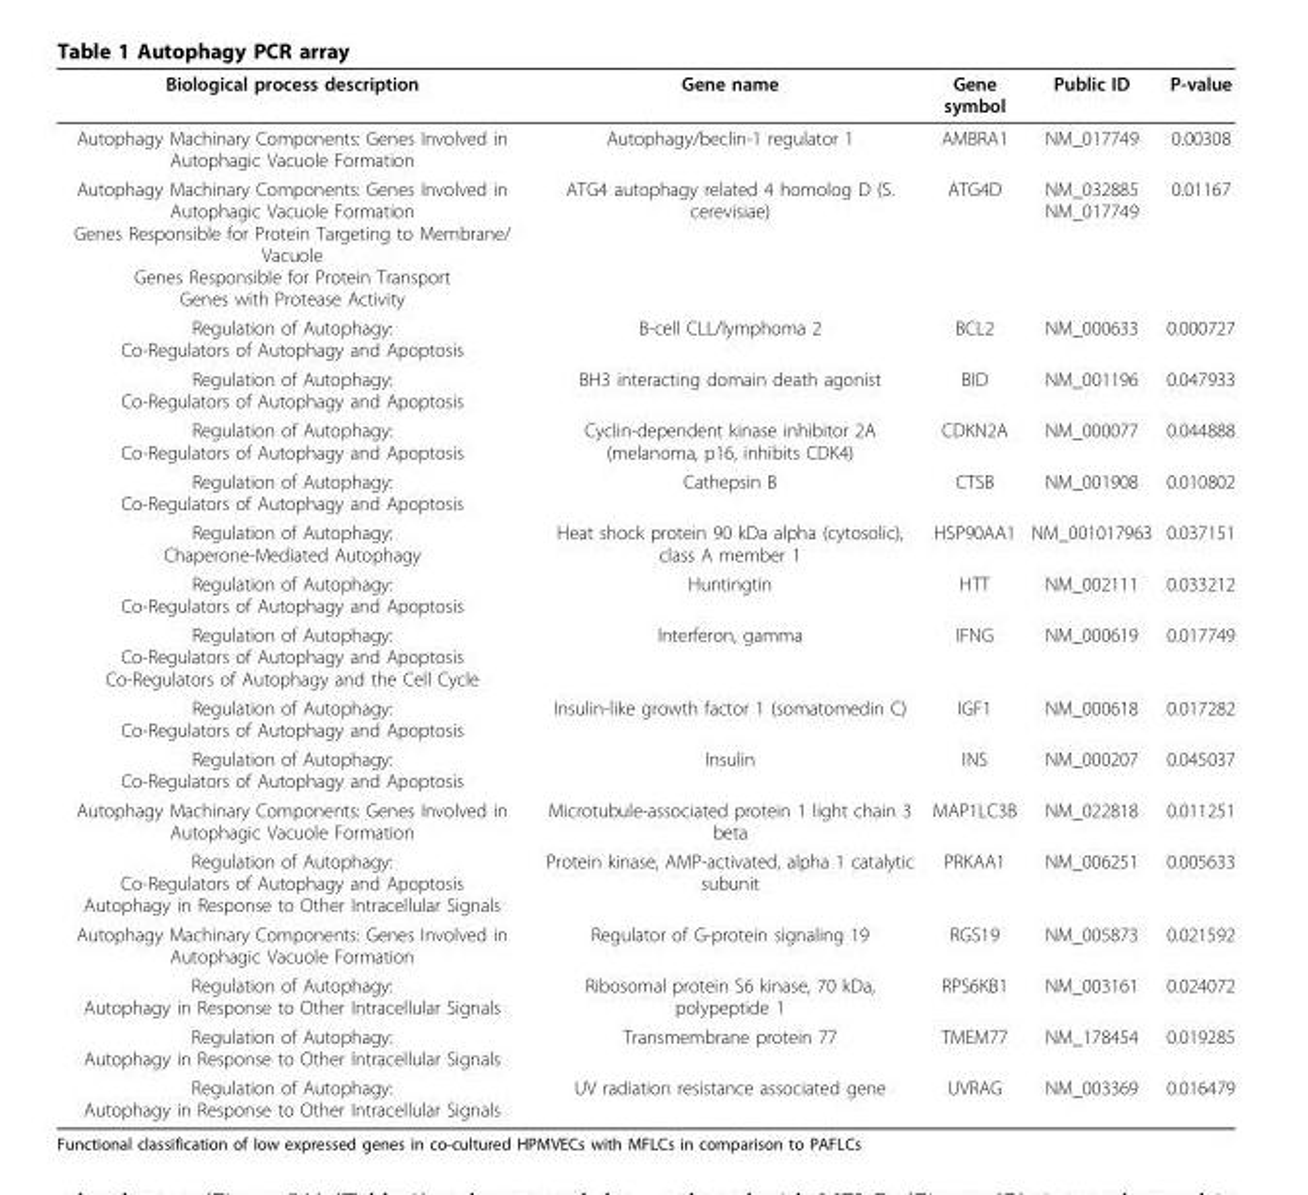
<table><thead><tr><td>Biological process description</td><td>Gene name</td><td>Gene symbol</td><td>Public ID</td><td>P-value</td></tr></thead><tbody><tr><td>Autophagy Machinary Components: Genes Involved in Autophagic Vacuole Formation</td><td>Autophagy/beclin-1 regulator 1</td><td>AMBRA1</td><td>NM_017749</td><td>0.00308</td></tr><tr><td>Autophagy Machinary Components: Genes Involved in Autophagic Vacuole Formation Genes Responsible for Protein Targeting to Membrane/ Vacuole Genes Responsible for Protein Transport Genes with Protease Activity</td><td>ATG4 autophagy related 4 homolog D (S. cerevisiae)</td><td>ATG4D</td><td>NM_032885 NM_017749</td><td>0.01167</td></tr><tr><td>Regulation of Autophagy: Co-Regulators of Autophagy and Apoptosis</td><td>B-cell CLL/lymphoma 2</td><td>BCL2</td><td>NM_000633</td><td>0.000727</td></tr><tr><td>Regulation of Autophagy: Co-Regulators of Autophagy and Apoptosis</td><td>BH3 interacting domain death agonist</td><td>BID</td><td>NM_001196</td><td>0.047933</td></tr><tr><td>Regulation of Autophagy: Co-Regulators of Autophagy and Apoptosis</td><td>Cyclin-dependent kinase inhibitor 2A (melanoma, p16, inhibits CDK4)</td><td>CDKN2A</td><td>NM_000077</td><td>0.044888</td></tr><tr><td>Regulation of Autophagy: Co-Regulators of Autophagy and Apoptosis</td><td>Cathepsin B</td><td>CTSB</td><td>NM_001908</td><td>0.010802</td></tr><tr><td>Regulation of Autophagy: Chaperone-Mediated Autophagy</td><td>Heat shock protein 90 kDa alpha (cytosolic), class A member 1</td><td>HSP90AA1</td><td>NM_001017963</td><td>0.037151</td></tr><tr><td>Regulation of Autophagy: Co-Regulators of Autophagy and Apoptosis</td><td>Huntingtin</td><td>HTT</td><td>NM_002111</td><td>0.033212</td></tr><tr><td>Regulation of Autophagy: Co-Regulators of Autophagy and Apoptosis Co-Regulators of Autophagy and the Cell Cycle</td><td>Interferon, gamma</td><td>IFNG</td><td>NM_000619</td><td>0.017749</td></tr><tr><td>Regulation of Autophagy: Co-Regulators of Autophagy and Apoptosis</td><td>Insulin-like growth factor 1 (somatomedin C)</td><td>IGF1</td><td>NM_000618</td><td>0.017282</td></tr><tr><td>Regulation of Autophagy: Co-Regulators of Autophagy and Apoptosis</td><td>Insulin</td><td>INS</td><td>NM_000207</td><td>0.045037</td></tr><tr><td>Autophagy Machinary Components: Genes Involved in Autophagic Vacuole Formation</td><td>Microtubule-associated protein 1 light chain 3 beta</td><td>MAP1LC3B</td><td>NM_022818</td><td>0.011251</td></tr><tr><td>Regulation of Autophagy: Co-Regulators of Autophagy and Apoptosis Autophagy in Response to Other Intracellular Signals</td><td>Protein kinase, AMP-activated, alpha 1 catalytic subunit</td><td>PRKAA1</td><td>NM_006251</td><td>0.005633</td></tr><tr><td>Autophagy Machinary Components: Genes Involved in Autophagic Vacuole Formation</td><td>Regulator of G-protein signaling 19</td><td>RGS19</td><td>NM_005873</td><td>0.021592</td></tr><tr><td>Regulation of Autophagy: Autophagy in Response to Other Intracellular Signals</td><td>Ribosomal protein S6 kinase, 70 kDa, polypeptide 1</td><td>RPS6KB1</td><td>NM_003161</td><td>0.024072</td></tr><tr><td>Regulation of Autophagy: Autophagy in Response to Other Intracellular Signals</td><td>Transmembrane protein 77</td><td>TMEM77</td><td>NM_178454</td><td>0.019285</td></tr><tr><td>Regulation of Autophagy: Autophagy in Response to Other Intracellular Signals</td><td>UV radiation resistance associated gene</td><td>UVRAG</td><td>NM_003369</td><td>0.016479</td></tr></tbody></table>